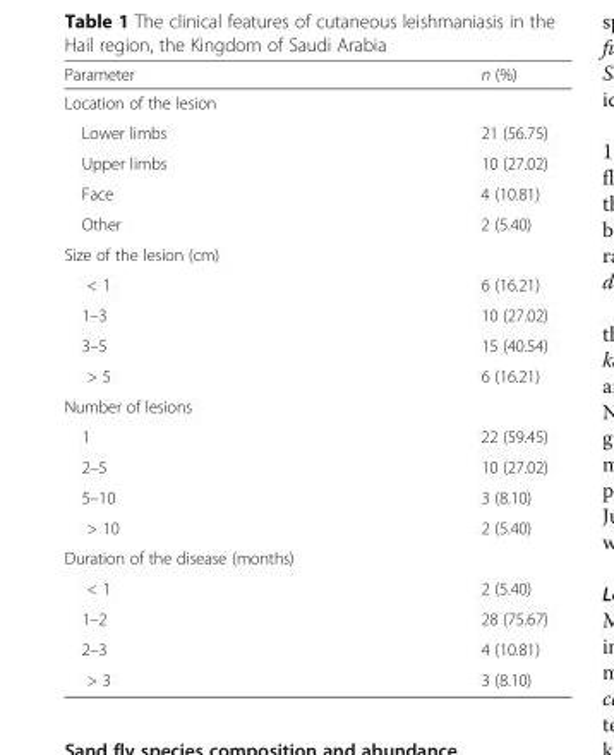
<table><thead><tr><td>Parameter</td><td>n (%)</td></tr></thead><tbody><tr><td colspan="2">Location of the lesion</td></tr><tr><td>Lower limbs</td><td>21 (56.75)</td></tr><tr><td>Upper limbs</td><td>10 (27.02)</td></tr><tr><td>Face</td><td>4 (10.81)</td></tr><tr><td>Other</td><td>2 (5.40)</td></tr><tr><td colspan="2">Size of the lesion (cm)</td></tr><tr><td>&lt; 1</td><td>6 (16.21)</td></tr><tr><td>1–3</td><td>10 (27.02)</td></tr><tr><td>3–5</td><td>15 (40.54)</td></tr><tr><td>&gt; 5</td><td>6 (16.21)</td></tr><tr><td colspan="2">Number of lesions</td></tr><tr><td>1</td><td>22 (59.45)</td></tr><tr><td>2–5</td><td>10 (27.02)</td></tr><tr><td>5–10</td><td>3 (8.10)</td></tr><tr><td>&gt; 10</td><td>2 (5.40)</td></tr><tr><td colspan="2">Duration of the disease (months)</td></tr><tr><td>&lt; 1</td><td>2 (5.40)</td></tr><tr><td>1–2</td><td>28 (75.67)</td></tr><tr><td>2–3</td><td>4 (10.81)</td></tr><tr><td>&gt; 3</td><td>3 (8.10)</td></tr></tbody></table>